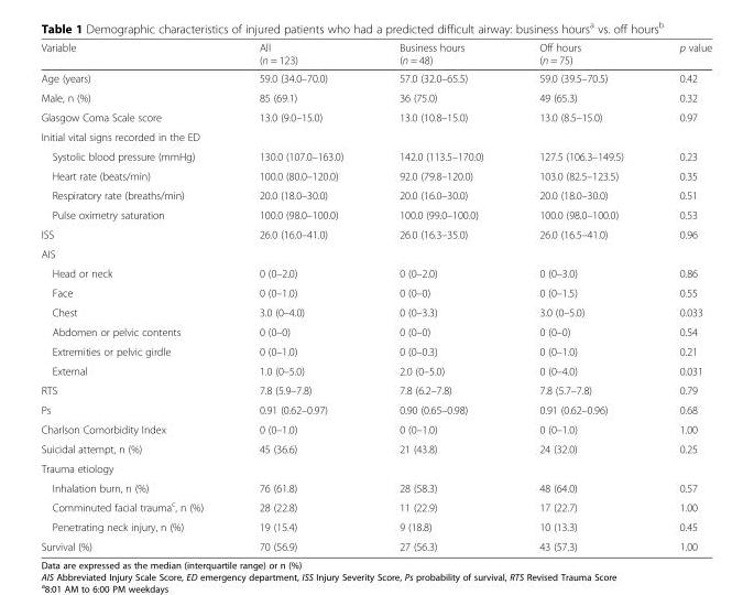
<table><thead><tr><td>Variable</td><td>All (n = 123)</td><td>Business hours (n = 48)</td><td>Off hours (n = 75)</td><td>p value</td></tr></thead><tbody><tr><td>Age (years)</td><td>59.0 (34.0–70.0)</td><td>57.0 (32.0–65.5)</td><td>59.0 (39.5–70.5)</td><td>0.42</td></tr><tr><td>Male, n (%)</td><td>85 (69.1)</td><td>36 (75.0)</td><td>49 (65.3)</td><td>0.32</td></tr><tr><td>Glasgow Coma Scale score</td><td>13.0 (9.0–15.0)</td><td>13.0 (10.8–15.0)</td><td>13.0 (8.5–15.0)</td><td>0.97</td></tr><tr><td colspan="5">Initial vital signs recorded in the ED</td></tr><tr><td>Systolic blood pressure (mmHg)</td><td>130.0 (107.0–163.0)</td><td>142.0 (113.5–170.0)</td><td>127.5 (106.3–149.5)</td><td>0.23</td></tr><tr><td>Heart rate (beats/min)</td><td>100.0 (80.0–120.0)</td><td>92.0 (79.8–120.0)</td><td>103.0 (82.5–123.5)</td><td>0.35</td></tr><tr><td>Respiratory rate (breaths/min)</td><td>20.0 (18.0–30.0)</td><td>20.0 (16.0–30.0)</td><td>20.0 (18.0–30.0)</td><td>0.51</td></tr><tr><td>Pulse oximetry saturation</td><td>100.0 (98.0–100.0)</td><td>100.0 (99.0–100.0)</td><td>100.0 (98.0–100.0)</td><td>0.53</td></tr><tr><td>ISS</td><td>26.0 (16.0–41.0)</td><td>26.0 (16.3–35.0)</td><td>26.0 (16.5–41.0)</td><td>0.96</td></tr><tr><td colspan="5">AIS</td></tr><tr><td>Head or neck</td><td>0 (0–2.0)</td><td>0 (0–2.0)</td><td>0 (0–3.0)</td><td>0.86</td></tr><tr><td>Face</td><td>0 (0–1.0)</td><td>0 (0–0)</td><td>0 (0–1.5)</td><td>0.55</td></tr><tr><td>Chest</td><td>3.0 (0–4.0)</td><td>0 (0–3.3)</td><td>3.0 (0–5.0)</td><td>0.033</td></tr><tr><td>Abdomen or pelvic contents</td><td>0 (0–0)</td><td>0 (0–0)</td><td>0 (0–0)</td><td>0.54</td></tr><tr><td>Extremities or pelvic girdle</td><td>0 (0–1.0)</td><td>0 (0–0.3)</td><td>0 (0–1.0)</td><td>0.21</td></tr><tr><td>External</td><td>1.0 (0–5.0)</td><td>2.0 (0–5.0)</td><td>0 (0–4.0)</td><td>0.031</td></tr><tr><td>RTS</td><td>7.8 (5.9–7.8)</td><td>7.8 (6.2–7.8)</td><td>7.8 (5.7–7.8)</td><td>0.79</td></tr><tr><td>Ps</td><td>0.91 (0.62–0.97)</td><td>0.90 (0.65–0.98)</td><td>0.91 (0.62–0.96)</td><td>0.68</td></tr><tr><td>Charlson Comorbidity Index</td><td>0 (0–1.0)</td><td>0 (0–1.0)</td><td>0 (0–1.0)</td><td>1.00</td></tr><tr><td>Suicidal attempt, n (%)</td><td>45 (36.6)</td><td>21 (43.8)</td><td>24 (32.0)</td><td>0.25</td></tr><tr><td colspan="5">Trauma etiology</td></tr><tr><td>Inhalation burn, n (%)</td><td>76 (61.8)</td><td>28 (58.3)</td><td>48 (64.0)</td><td>0.57</td></tr><tr><td>Comminuted facial trauma<sup>c</sup>, n (%)</td><td>28 (22.8)</td><td>11 (22.9)</td><td>17 (22.7)</td><td>1.00</td></tr><tr><td>Penetrating neck injury, n (%)</td><td>19 (15.4)</td><td>9 (18.8)</td><td>10 (13.3)</td><td>0.45</td></tr><tr><td>Survival (%)</td><td>70 (56.9)</td><td>27 (56.3)</td><td>43 (57.3)</td><td>1.00</td></tr></tbody></table>